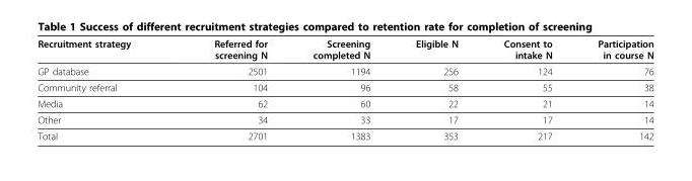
<table><thead><tr><td>Recruitment strategy</td><td>Referred for screening N</td><td>Screening completed N</td><td>Eligible N</td><td>Consent to intake N</td><td>Participation in course N</td></tr></thead><tbody><tr><td>GP database</td><td>2501</td><td>1194</td><td>256</td><td>124</td><td>76</td></tr><tr><td>Community referral</td><td>104</td><td>96</td><td>58</td><td>55</td><td>38</td></tr><tr><td>Media</td><td>62</td><td>60</td><td>22</td><td>21</td><td>14</td></tr><tr><td>Other</td><td>34</td><td>33</td><td>17</td><td>17</td><td>14</td></tr><tr><td>Total</td><td>2701</td><td>1383</td><td>353</td><td>217</td><td>142</td></tr></tbody></table>